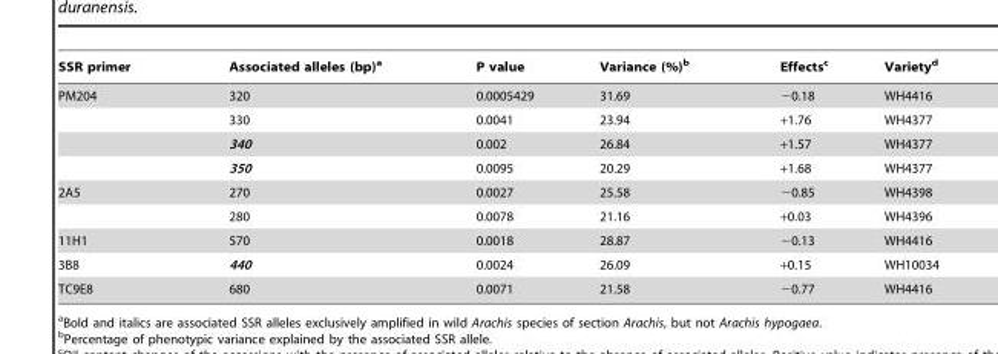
<table><thead><tr><td>SSR primer</td><td>Associated alleles (bp)<sup>a</sup></td><td>P value</td><td>Variance (%)<sup>b</sup></td><td>Effects<sup>c</sup></td><td>Variety<sup>d</sup></td></tr></thead><tbody><tr><td rowspan="4">PM204</td><td>320</td><td>0.0005429</td><td>31.69</td><td>−0.18</td><td>WH4416</td></tr><tr><td>330</td><td>0.0041</td><td>23.94</td><td>+1.76</td><td>WH4377</td></tr><tr><td>340</td><td>0.002</td><td>26.84</td><td>+1.57</td><td>WH4377</td></tr><tr><td>350</td><td>0.0095</td><td>20.29</td><td>+1.68</td><td>WH4377</td></tr><tr><td rowspan="2">2A5</td><td>270</td><td>0.0027</td><td>25.58</td><td>−0.85</td><td>WH4398</td></tr><tr><td>280</td><td>0.0078</td><td>21.16</td><td>+0.03</td><td>WH4396</td></tr><tr><td>11H1</td><td>570</td><td>0.0018</td><td>28.87</td><td>−0.13</td><td>WH4416</td></tr><tr><td>3B8</td><td>440</td><td>0.0024</td><td>26.09</td><td>+0.15</td><td>WH10034</td></tr><tr><td>TC9E8</td><td>680</td><td>0.0071</td><td>21.58</td><td>−0.77</td><td>WH4416</td></tr></tbody></table>